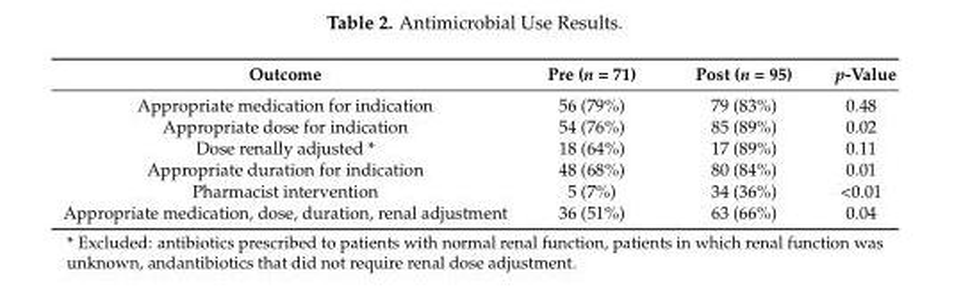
<table><thead><tr><td>Outcome</td><td>Pre (n = 71)</td><td>Post (n = 95)</td><td>p-Value</td></tr></thead><tbody><tr><td>Appropriate medication for indication</td><td>56 (79%)</td><td>79 (83%)</td><td>0.48</td></tr><tr><td>Appropriate dose for indication</td><td>54 (76%)</td><td>85 (89%)</td><td>0.02</td></tr><tr><td>Dose renally adjusted *</td><td>18 (64%)</td><td>17 (89%)</td><td>0.11</td></tr><tr><td>Appropriate duration for indication</td><td>48 (68%)</td><td>80 (84%)</td><td>0.01</td></tr><tr><td>Pharmacist intervention</td><td>5 (7%)</td><td>34 (36%)</td><td>&lt;0.01</td></tr><tr><td>Appropriate medication, dose, duration, renal adjustment</td><td>36 (51%)</td><td>63 (66%)</td><td>0.04</td></tr></tbody></table>